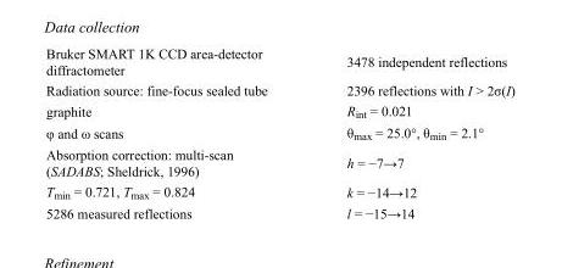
<table><tbody><tr><td>Bruker SMART 1K CCD area-detector diffractometer</td><td>3478 independent reflections</td></tr><tr><td>Radiation source: fine-focus sealed tube</td><td>2396 reflections with I &gt; 2σ(I)</td></tr><tr><td>graphite</td><td>R<sub>int</sub> = 0.021</td></tr><tr><td>φ and ω scans</td><td>θ<sub>max</sub> = 25.0°, θ<sub>min</sub> = 2.1°</td></tr><tr><td>Absorption correction: multi-scan (SADABS; Sheldrick, 1996)</td><td>h = −7→7</td></tr><tr><td>T<sub>min</sub> = 0.721, T<sub>max</sub> = 0.824</td><td>k = −14→12</td></tr><tr><td>5286 measured reflections</td><td>l = −15→14</td></tr></tbody></table>